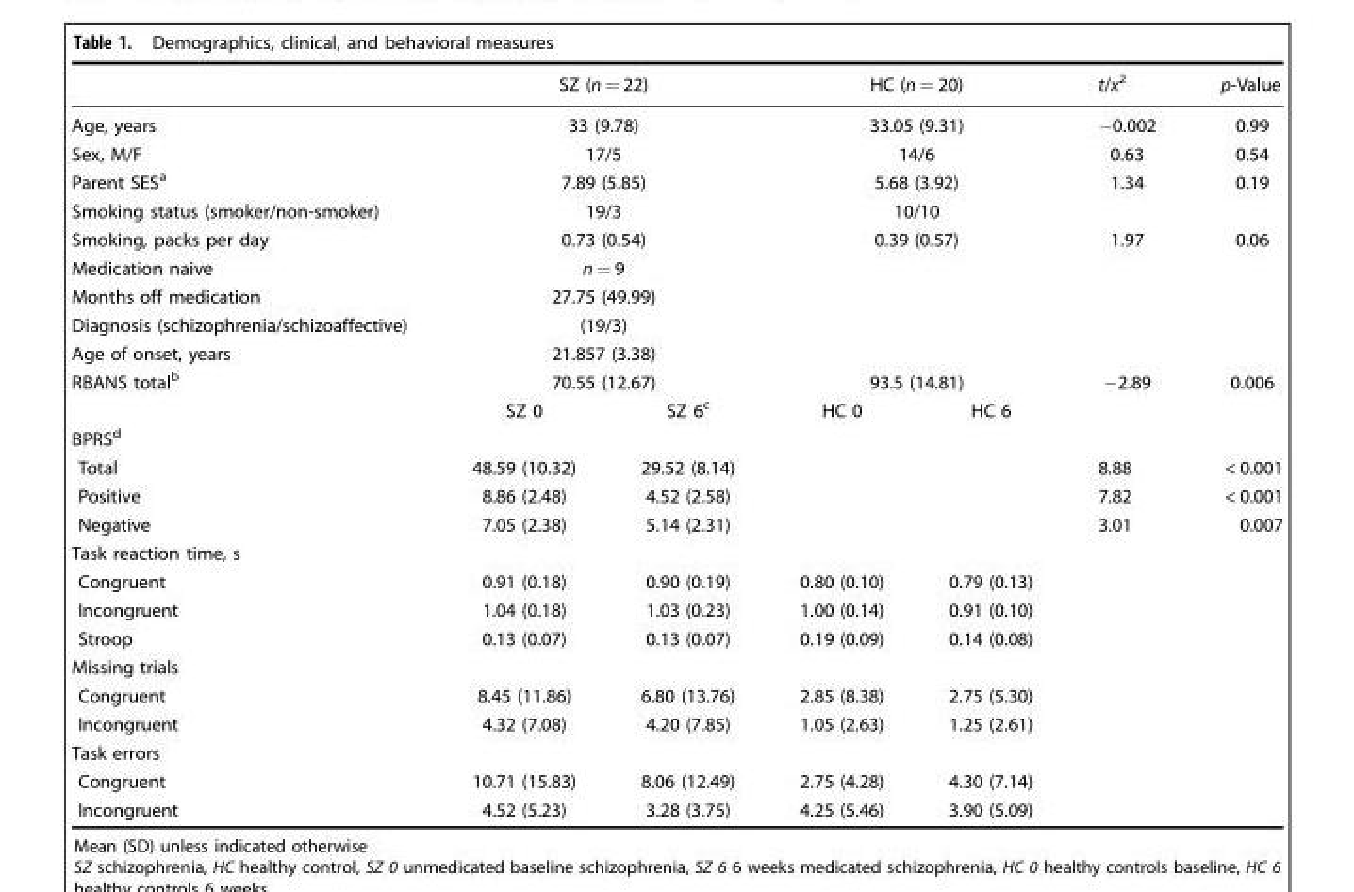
<table><thead><tr><td></td><td colspan="2">SZ (n = 22)</td><td colspan="2">HC (n = 20)</td><td>t/x<sup>2</sup></td><td>p-Value</td></tr></thead><tbody><tr><td>Age, years</td><td colspan="2">33 (9.78)</td><td colspan="2">33.05 (9.31)</td><td>−0.002</td><td>0.99</td></tr><tr><td>Sex, M/F</td><td colspan="2">17/5</td><td colspan="2">14/6</td><td>0.63</td><td>0.54</td></tr><tr><td>Parent SES<sup>a</sup></td><td colspan="2">7.89 (5.85)</td><td colspan="2">5.68 (3.92)</td><td>1.34</td><td>0.19</td></tr><tr><td>Smoking status (smoker/non-smoker)</td><td colspan="2">19/3</td><td colspan="2">10/10</td><td></td><td></td></tr><tr><td>Smoking, packs per day</td><td colspan="2">0.73 (0.54)</td><td colspan="2">0.39 (0.57)</td><td>1.97</td><td>0.06</td></tr><tr><td>Medication naive</td><td colspan="2">n = 9</td><td></td><td></td><td></td><td></td></tr><tr><td>Months off medication</td><td colspan="2">27.75 (49.99)</td><td></td><td></td><td></td><td></td></tr><tr><td>Diagnosis (schizophrenia/schizoaffective)</td><td colspan="2">(19/3)</td><td></td><td></td><td></td><td></td></tr><tr><td>Age of onset, years</td><td colspan="2">21.857 (3.38)</td><td></td><td></td><td></td><td></td></tr><tr><td rowspan="2">RBANS total<sup>b</sup></td><td colspan="2">70.55 (12.67)</td><td colspan="2">93.5 (14.81)</td><td>−2.89</td><td>0.006</td></tr><tr><td>SZ 0</td><td>SZ 6<sup>c</sup></td><td>HC 0</td><td>HC 6</td><td></td><td></td></tr><tr><td colspan="7">BPRS<sup>d</sup></td></tr><tr><td>Total</td><td>48.59 (10.32)</td><td>29.52 (8.14)</td><td></td><td></td><td>8.88</td><td>&lt; 0.001</td></tr><tr><td>Positive</td><td>8.86 (2.48)</td><td>4.52 (2.58)</td><td></td><td></td><td>7.82</td><td>&lt; 0.001</td></tr><tr><td>Negative</td><td>7.05 (2.38)</td><td>5.14 (2.31)</td><td></td><td></td><td>3.01</td><td>0.007</td></tr><tr><td colspan="7">Task reaction time, s</td></tr><tr><td>Congruent</td><td>0.91 (0.18)</td><td>0.90 (0.19)</td><td>0.80 (0.10)</td><td>0.79 (0.13)</td><td></td><td></td></tr><tr><td>Incongruent</td><td>1.04 (0.18)</td><td>1.03 (0.23)</td><td>1.00 (0.14)</td><td>0.91 (0.10)</td><td></td><td></td></tr><tr><td>Stroop</td><td>0.13 (0.07)</td><td>0.13 (0.07)</td><td>0.19 (0.09)</td><td>0.14 (0.08)</td><td></td><td></td></tr><tr><td colspan="7">Missing trials</td></tr><tr><td>Congruent</td><td>8.45 (11.86)</td><td>6.80 (13.76)</td><td>2.85 (8.38)</td><td>2.75 (5.30)</td><td></td><td></td></tr><tr><td>Incongruent</td><td>4.32 (7.08)</td><td>4.20 (7.85)</td><td>1.05 (2.63)</td><td>1.25 (2.61)</td><td></td><td></td></tr><tr><td colspan="7">Task errors</td></tr><tr><td>Congruent</td><td>10.71 (15.83)</td><td>8.06 (12.49)</td><td>2.75 (4.28)</td><td>4.30 (7.14)</td><td></td><td></td></tr><tr><td>Incongruent</td><td>4.52 (5.23)</td><td>3.28 (3.75)</td><td>4.25 (5.46)</td><td>3.90 (5.09)</td><td></td><td></td></tr></tbody></table>